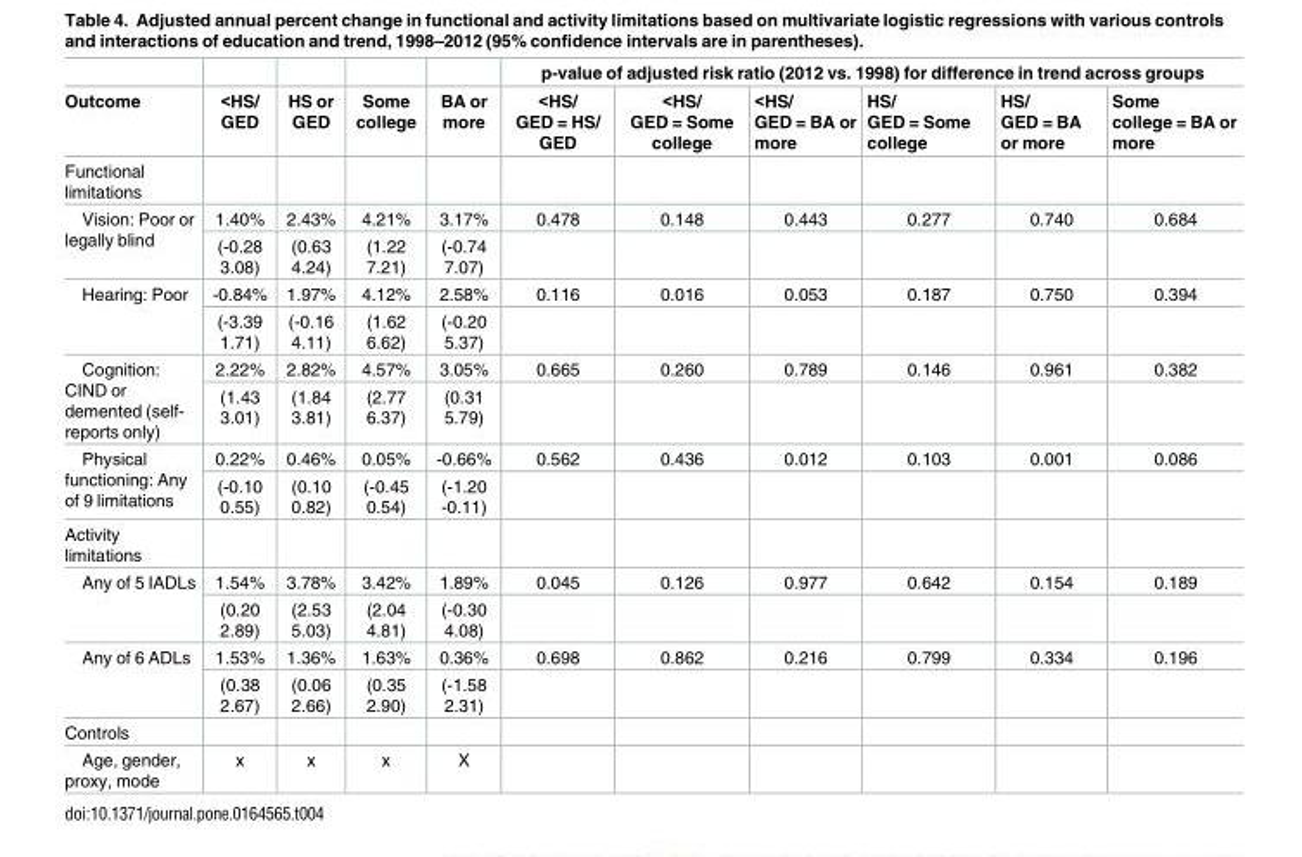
<table><thead><tr><td rowspan="2">Outcome</td><td rowspan="2">&lt;HS/ GED</td><td rowspan="2">HS or GED</td><td rowspan="2">Some college</td><td rowspan="2">BA or more</td><td colspan="6">p-value of adjusted risk ratio (2012 vs. 1998) for difference in trend across groups</td></tr><tr><td>&lt;HS/ GED = HS/ GED</td><td>&lt;HS/ GED = Some college</td><td>&lt;HS/ GED = BA or more</td><td>HS/ GED = Some college</td><td>HS/ GED = BA or more</td><td>Some college = BA or more</td></tr></thead><tbody><tr><td colspan="11">Functional limitations</td></tr><tr><td rowspan="2">Vision: Poor or legally blind</td><td>1.40%</td><td>2.43%</td><td>4.21%</td><td>3.17%</td><td>0.478</td><td>0.148</td><td>0.443</td><td>0.277</td><td>0.740</td><td>0.684</td></tr><tr><td>(-0.28 3.08)</td><td>(0.63 4.24)</td><td>(1.22 7.21)</td><td>(-0.74 7.07)</td><td></td><td></td><td></td><td></td><td></td><td></td></tr><tr><td rowspan="2">Hearing: Poor</td><td>-0.84%</td><td>1.97%</td><td>4.12%</td><td>2.58%</td><td>0.116</td><td>0.016</td><td>0.053</td><td>0.187</td><td>0.750</td><td>0.394</td></tr><tr><td>(-3.39 1.71)</td><td>(-0.16 4.11)</td><td>(1.62 6.62)</td><td>(-0.20 5.37)</td><td></td><td></td><td></td><td></td><td></td><td></td></tr><tr><td rowspan="2">Cognition: CIND or demented (self- reports only)</td><td>2.22%</td><td>2.82%</td><td>4.57%</td><td>3.05%</td><td>0.665</td><td>0.260</td><td>0.789</td><td>0.146</td><td>0.961</td><td>0.382</td></tr><tr><td>(1.43 3.01)</td><td>(1.84 3.81)</td><td>(2.77 6.37)</td><td>(0.31 5.79)</td><td></td><td></td><td></td><td></td><td></td><td></td></tr><tr><td rowspan="2">Physical functioning: Any of 9 limitations</td><td>0.22%</td><td>0.46%</td><td>0.05%</td><td>-0.66%</td><td>0.562</td><td>0.436</td><td>0.012</td><td>0.103</td><td>0.001</td><td>0.086</td></tr><tr><td>(-0.10 0.55)</td><td>(0.10 0.82)</td><td>(-0.45 0.54)</td><td>(-1.20 -0.11)</td><td></td><td></td><td></td><td></td><td></td><td></td></tr><tr><td colspan="11">Activity limitations</td></tr><tr><td rowspan="2">Any of 5 IADLs</td><td>1.54%</td><td>3.78%</td><td>3.42%</td><td>1.89%</td><td>0.045</td><td>0.126</td><td>0.977</td><td>0.642</td><td>0.154</td><td>0.189</td></tr><tr><td>(0.20 2.89)</td><td>(2.53 5.03)</td><td>(2.04 4.81)</td><td>(-0.30 4.08)</td><td></td><td></td><td></td><td></td><td></td><td></td></tr><tr><td rowspan="2">Any of 6 ADLs</td><td>1.53%</td><td>1.36%</td><td>1.63%</td><td>0.36%</td><td>0.698</td><td>0.862</td><td>0.216</td><td>0.799</td><td>0.334</td><td>0.196</td></tr><tr><td>(0.38 2.67)</td><td>(0.06 2.66)</td><td>(0.35 2.90)</td><td>(-1.58 2.31)</td><td></td><td></td><td></td><td></td><td></td><td></td></tr><tr><td colspan="11">Controls</td></tr><tr><td>Age, gender, proxy, mode</td><td>x</td><td>x</td><td>x</td><td>X</td><td></td><td></td><td></td><td></td><td></td><td></td></tr></tbody></table>